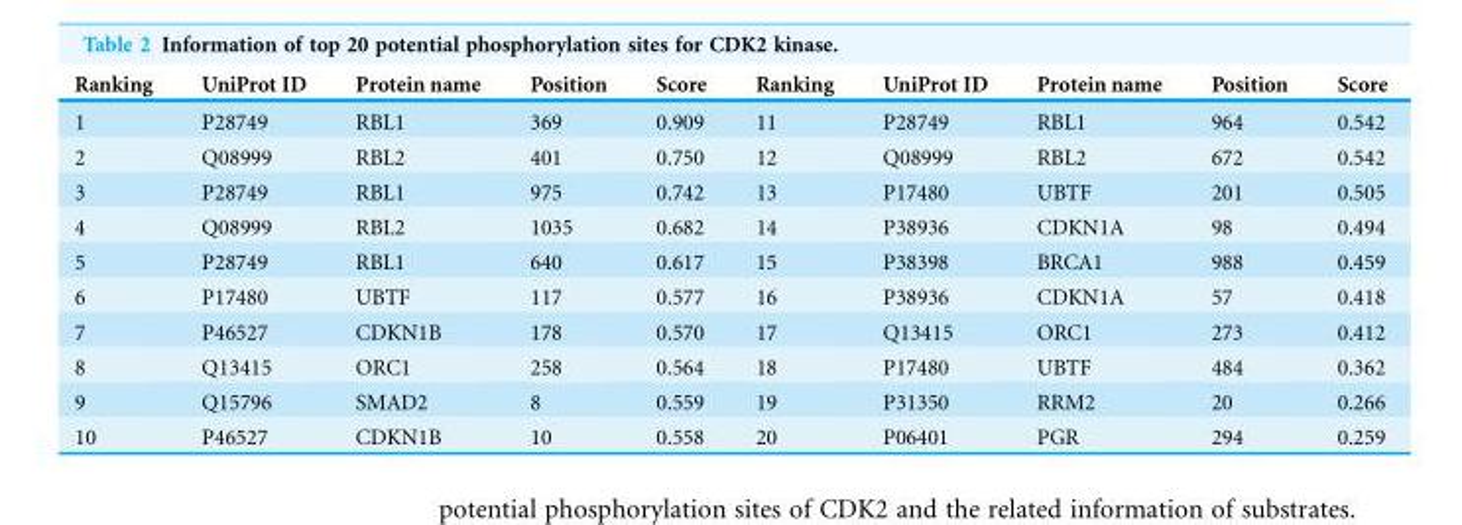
<table><thead><tr><td>Ranking</td><td>UniProt ID</td><td>Protein name</td><td>Position</td><td>Score</td><td>Ranking</td><td>UniProt ID</td><td>Protein name</td><td>Position</td><td>Score</td></tr></thead><tbody><tr><td>1</td><td>P28749</td><td>RBL1</td><td>369</td><td>0.909</td><td>11</td><td>P28749</td><td>RBL1</td><td>964</td><td>0.542</td></tr><tr><td>2</td><td>Q08999</td><td>RBL2</td><td>401</td><td>0.750</td><td>12</td><td>Q08999</td><td>RBL2</td><td>672</td><td>0.542</td></tr><tr><td>3</td><td>P28749</td><td>RBL1</td><td>975</td><td>0.742</td><td>13</td><td>P17480</td><td>UBTF</td><td>201</td><td>0.505</td></tr><tr><td>4</td><td>Q08999</td><td>RBL2</td><td>1035</td><td>0.682</td><td>14</td><td>P38936</td><td>CDKN1A</td><td>98</td><td>0.494</td></tr><tr><td>5</td><td>P28749</td><td>RBL1</td><td>640</td><td>0.617</td><td>15</td><td>P38398</td><td>BRCA1</td><td>988</td><td>0.459</td></tr><tr><td>6</td><td>P17480</td><td>UBTF</td><td>117</td><td>0.577</td><td>16</td><td>P38936</td><td>CDKN1A</td><td>57</td><td>0.418</td></tr><tr><td>7</td><td>P46527</td><td>CDKN1B</td><td>178</td><td>0.570</td><td>17</td><td>Q13415</td><td>ORC1</td><td>273</td><td>0.412</td></tr><tr><td>8</td><td>Q13415</td><td>ORC1</td><td>258</td><td>0.564</td><td>18</td><td>P17480</td><td>UBTF</td><td>484</td><td>0.362</td></tr><tr><td>9</td><td>Q15796</td><td>SMAD2</td><td>8</td><td>0.559</td><td>19</td><td>P31350</td><td>RRM2</td><td>20</td><td>0.266</td></tr><tr><td>10</td><td>P46527</td><td>CDKN1B</td><td>10</td><td>0.558</td><td>20</td><td>P06401</td><td>PGR</td><td>294</td><td>0.259</td></tr></tbody></table>